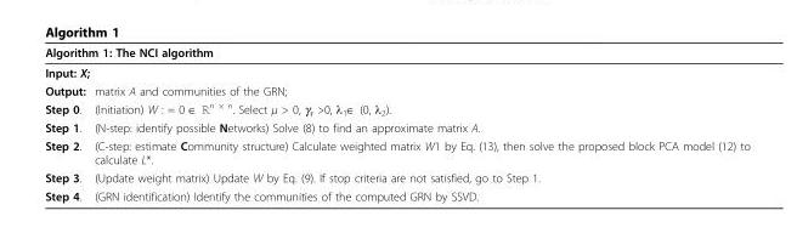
<table><thead><tr><td rowspan="2" colspan="2">Algorithm 1: The NCI algorithm Input: X;</td></tr><tr></tr><tr><td>Output:</td><td>matrix A and communities of the GRN;</td></tr></thead><tbody><tr><td>Step 0.</td><td>(Initiation) W : = 0 ∈ ℝ<sup>n × n</sup>. Select μ &gt; 0, γ<sub>τ</sub> &gt;0, λ<sub>1</sub>∈ (0, λ<sub>2</sub>).</td></tr><tr><td>Step 1.</td><td>(N-step: identify possible Networks) Solve (8) to find an approximate matrix A.</td></tr><tr><td>Step 2.</td><td>(C-step: estimate Community structure) Calculate weighted matrix W1 by Eq. (13), then solve the proposed block PCA model (12) to calculate L*.</td></tr><tr><td>Step 3.</td><td>(Update weight matrix) Update W by Eq. (9). If stop criteria are not satisfied, go to Step 1.</td></tr><tr><td>Step 4.</td><td>(GRN identification) Identify the communities of the computed GRN by SSVD.</td></tr></tbody></table>